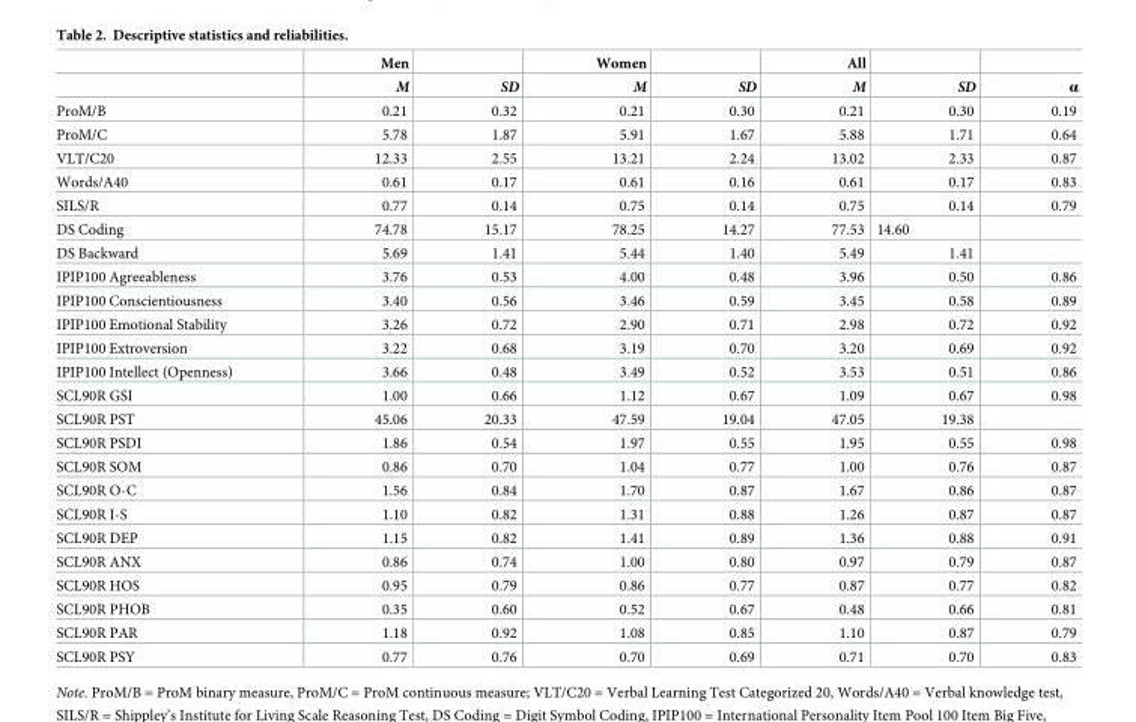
<table><thead><tr><td rowspan="2"></td><td rowspan="2">Men M</td><td rowspan="2">SD</td><td rowspan="2">Women M</td><td rowspan="2">SD</td><td rowspan="2">All M</td><td rowspan="2">SD</td><td rowspan="2">α</td></tr><tr></tr></thead><tbody><tr><td>ProM/B</td><td>0.21</td><td>0.32</td><td>0.21</td><td>0.30</td><td>0.21</td><td>0.30</td><td>0.19</td></tr><tr><td>ProM/C</td><td>5.78</td><td>1.87</td><td>5.91</td><td>1.67</td><td>5.88</td><td>1.71</td><td>0.64</td></tr><tr><td>VLT/C20</td><td>12.33</td><td>2.55</td><td>13.21</td><td>2.24</td><td>13.02</td><td>2.33</td><td>0.87</td></tr><tr><td>Words/A40</td><td>0.61</td><td>0.17</td><td>0.61</td><td>0.16</td><td>0.61</td><td>0.17</td><td>0.83</td></tr><tr><td>SILS/R</td><td>0.77</td><td>0.14</td><td>0.75</td><td>0.14</td><td>0.75</td><td>0.14</td><td>0.79</td></tr><tr><td>DS Coding</td><td>74.78</td><td>15.17</td><td>78.25</td><td>14.27</td><td>77.53</td><td>14.60</td><td></td></tr><tr><td>DS Backward</td><td>5.69</td><td>1.41</td><td>5.44</td><td>1.40</td><td>5.49</td><td>1.41</td><td></td></tr><tr><td>IPIP100 Agreeableness</td><td>3.76</td><td>0.53</td><td>4.00</td><td>0.48</td><td>3.96</td><td>0.50</td><td>0.86</td></tr><tr><td>IPIP100 Conscientiousness</td><td>3.40</td><td>0.56</td><td>3.46</td><td>0.59</td><td>3.45</td><td>0.58</td><td>0.89</td></tr><tr><td>IPIP100 Emotional Stability</td><td>3.26</td><td>0.72</td><td>2.90</td><td>0.71</td><td>2.98</td><td>0.72</td><td>0.92</td></tr><tr><td>IPIP100 Extroversion</td><td>3.22</td><td>0.68</td><td>3.19</td><td>0.70</td><td>3.20</td><td>0.69</td><td>0.92</td></tr><tr><td>IPIP100 Intellect (Openness)</td><td>3.66</td><td>0.48</td><td>3.49</td><td>0.52</td><td>3.53</td><td>0.51</td><td>0.86</td></tr><tr><td>SCL90R GSI</td><td>1.00</td><td>0.66</td><td>1.12</td><td>0.67</td><td>1.09</td><td>0.67</td><td>0.98</td></tr><tr><td>SCL90R PST</td><td>45.06</td><td>20.33</td><td>47.59</td><td>19.04</td><td>47.05</td><td>19.38</td><td></td></tr><tr><td>SCL90R PSDI</td><td>1.86</td><td>0.54</td><td>1.97</td><td>0.55</td><td>1.95</td><td>0.55</td><td>0.98</td></tr><tr><td>SCL90R SOM</td><td>0.86</td><td>0.70</td><td>1.04</td><td>0.77</td><td>1.00</td><td>0.76</td><td>0.87</td></tr><tr><td>SCL90R O-C</td><td>1.56</td><td>0.84</td><td>1.70</td><td>0.87</td><td>1.67</td><td>0.86</td><td>0.87</td></tr><tr><td>SCL90R I-S</td><td>1.10</td><td>0.82</td><td>1.31</td><td>0.88</td><td>1.26</td><td>0.87</td><td>0.87</td></tr><tr><td>SCL90R DEP</td><td>1.15</td><td>0.82</td><td>1.41</td><td>0.89</td><td>1.36</td><td>0.88</td><td>0.91</td></tr><tr><td>SCL90R ANX</td><td>0.86</td><td>0.74</td><td>1.00</td><td>0.80</td><td>0.97</td><td>0.79</td><td>0.87</td></tr><tr><td>SCL90R HOS</td><td>0.95</td><td>0.79</td><td>0.86</td><td>0.77</td><td>0.87</td><td>0.77</td><td>0.82</td></tr><tr><td>SCL90R PHOB</td><td>0.35</td><td>0.60</td><td>0.52</td><td>0.67</td><td>0.48</td><td>0.66</td><td>0.81</td></tr><tr><td>SCL90R PAR</td><td>1.18</td><td>0.92</td><td>1.08</td><td>0.85</td><td>1.10</td><td>0.87</td><td>0.79</td></tr><tr><td>SCL90R PSY</td><td>0.77</td><td>0.76</td><td>0.70</td><td>0.69</td><td>0.71</td><td>0.70</td><td>0.83</td></tr></tbody></table>